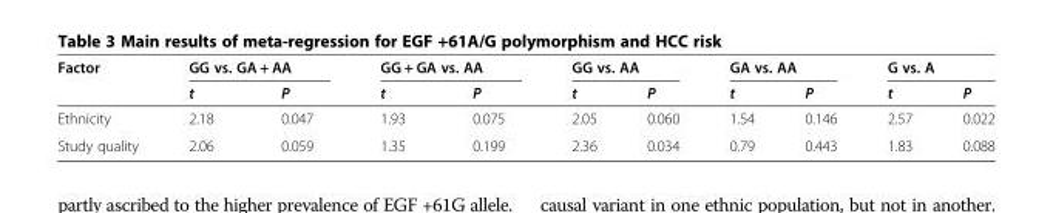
<table><thead><tr><td rowspan="2">Factor</td><td colspan="2">GG vs. GA + AA</td><td colspan="2">GG + GA vs. AA</td><td colspan="2">GG vs. AA</td><td colspan="2">GA vs. AA</td><td colspan="2">G vs. A</td></tr><tr><td>t</td><td>P</td><td>t</td><td>P</td><td>t</td><td>P</td><td>t</td><td>P</td><td>t</td><td>P</td></tr></thead><tbody><tr><td>Ethnicity</td><td>2.18</td><td>0.047</td><td>1.93</td><td>0.075</td><td>2.05</td><td>0.060</td><td>1.54</td><td>0.146</td><td>2.57</td><td>0.022</td></tr><tr><td>Study quality</td><td>2.06</td><td>0.059</td><td>1.35</td><td>0.199</td><td>2.36</td><td>0.034</td><td>0.79</td><td>0.443</td><td>1.83</td><td>0.088</td></tr></tbody></table>